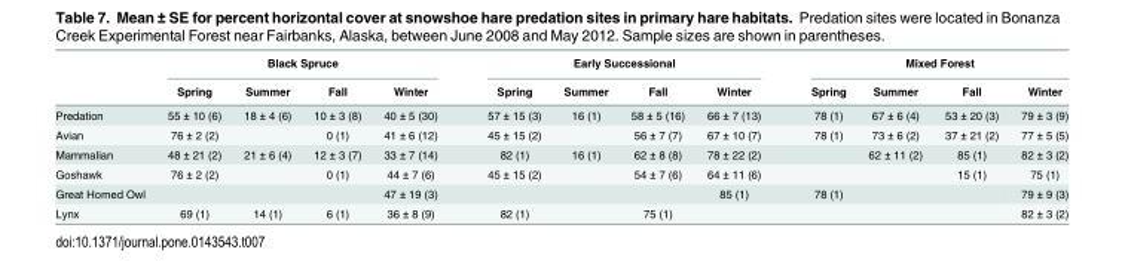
<table><thead><tr><td rowspan="2"></td><td colspan="4">Black Spruce</td><td colspan="4">Early Successional</td><td colspan="4">Mixed Forest</td></tr><tr><td>Spring</td><td>Summer</td><td>Fall</td><td>Winter</td><td>Spring</td><td>Summer</td><td>Fall</td><td>Winter</td><td>Spring</td><td>Summer</td><td>Fall</td><td>Winter</td></tr></thead><tbody><tr><td>Predation</td><td>55 ± 10 (6)</td><td>18 ± 4 (6)</td><td>10 ± 3 (8)</td><td>40 ± 5 (30)</td><td>57 ± 15 (3)</td><td>16 (1)</td><td>58 ± 5 (16)</td><td>66 ± 7 (13)</td><td>78 (1)</td><td>67 ± 6 (4)</td><td>53 ± 20 (3)</td><td>79 ± 3 (9)</td></tr><tr><td>Avian</td><td>76 ± 2 (2)</td><td></td><td>0 (1)</td><td>41 ± 6 (12)</td><td>45 ± 15 (2)</td><td></td><td>56 ± 7 (7)</td><td>67 ± 10 (7)</td><td>78 (1)</td><td>73 ± 6 (2)</td><td>37 ± 21 (2)</td><td>77 ± 5 (5)</td></tr><tr><td>Mammalian</td><td>48 ± 21 (2)</td><td>21 ± 6 (4)</td><td>12 ± 3 (7)</td><td>33 ± 7 (14)</td><td>82 (1)</td><td>16 (1)</td><td>62 ± 8 (8)</td><td>78 ± 22 (2)</td><td></td><td>62 ± 11 (2)</td><td>85 (1)</td><td>82 ± 3 (2)</td></tr><tr><td>Goshawk</td><td>76 ± 2 (2)</td><td></td><td>0 (1)</td><td>44 ± 7 (6)</td><td>45 ± 15 (2)</td><td></td><td>54 ± 7 (6)</td><td>64 ± 11 (6)</td><td></td><td></td><td>15 (1)</td><td>75 (1)</td></tr><tr><td>Great Horned Owl</td><td></td><td></td><td></td><td>47 ± 19 (3)</td><td></td><td></td><td></td><td>85 (1)</td><td>78 (1)</td><td></td><td></td><td>79 ± 9 (3)</td></tr><tr><td>Lynx</td><td>69 (1)</td><td>14 (1)</td><td>6 (1)</td><td>36 ± 8 (9)</td><td>82 (1)</td><td></td><td>75 (1)</td><td></td><td></td><td></td><td></td><td>82 ± 3 (2)</td></tr></tbody></table>